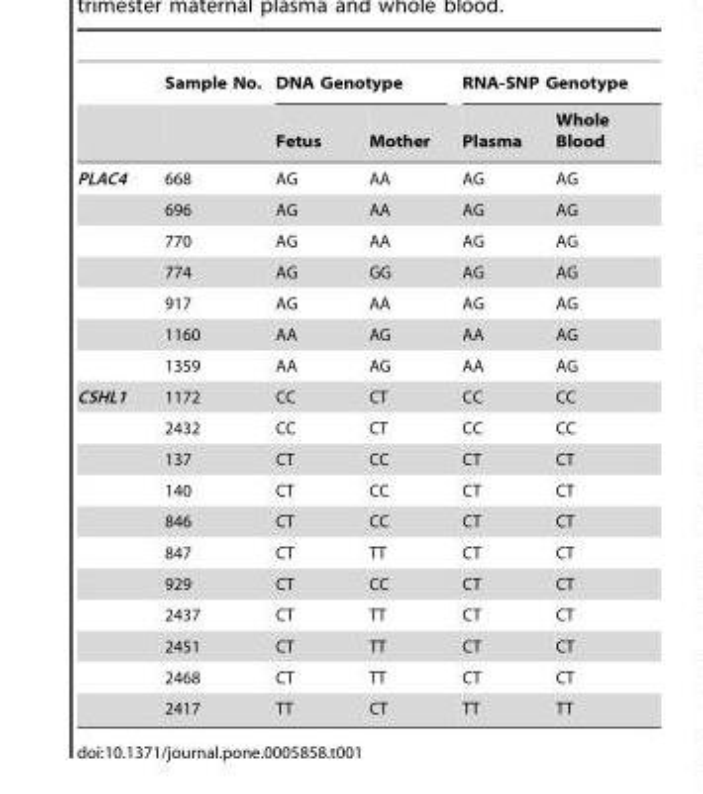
<table><thead><tr><td rowspan="2"></td><td rowspan="2">Sample No.</td><td colspan="2">DNA Genotype</td><td colspan="2">RNA-SNP Genotype</td></tr><tr><td>Fetus</td><td>Mother</td><td>Plasma</td><td>Whole Blood</td></tr></thead><tbody><tr><td rowspan="7">PLAC4</td><td>668</td><td>AG</td><td>AA</td><td>AG</td><td>AG</td></tr><tr><td>696</td><td>AG</td><td>AA</td><td>AG</td><td>AG</td></tr><tr><td>770</td><td>AG</td><td>AA</td><td>AG</td><td>AG</td></tr><tr><td>774</td><td>AG</td><td>GG</td><td>AG</td><td>AG</td></tr><tr><td>917</td><td>AG</td><td>AA</td><td>AG</td><td>AG</td></tr><tr><td>1160</td><td>AA</td><td>AG</td><td>AA</td><td>AG</td></tr><tr><td>1359</td><td>AA</td><td>AG</td><td>AA</td><td>AG</td></tr><tr><td rowspan="11">CSHL1</td><td>1172</td><td>CC</td><td>CT</td><td>CC</td><td>CC</td></tr><tr><td>2432</td><td>CC</td><td>CT</td><td>CC</td><td>CC</td></tr><tr><td>137</td><td>CT</td><td>CC</td><td>CT</td><td>CT</td></tr><tr><td>140</td><td>CT</td><td>CC</td><td>CT</td><td>CT</td></tr><tr><td>846</td><td>CT</td><td>CC</td><td>CT</td><td>CT</td></tr><tr><td>847</td><td>CT</td><td>TT</td><td>CT</td><td>CT</td></tr><tr><td>929</td><td>CT</td><td>CC</td><td>CT</td><td>CT</td></tr><tr><td>2437</td><td>CT</td><td>TT</td><td>CT</td><td>CT</td></tr><tr><td>2451</td><td>CT</td><td>TT</td><td>CT</td><td>CT</td></tr><tr><td>2468</td><td>CT</td><td>TT</td><td>CT</td><td>CT</td></tr><tr><td>2417</td><td>TT</td><td>CT</td><td>TT</td><td>TT</td></tr></tbody></table>